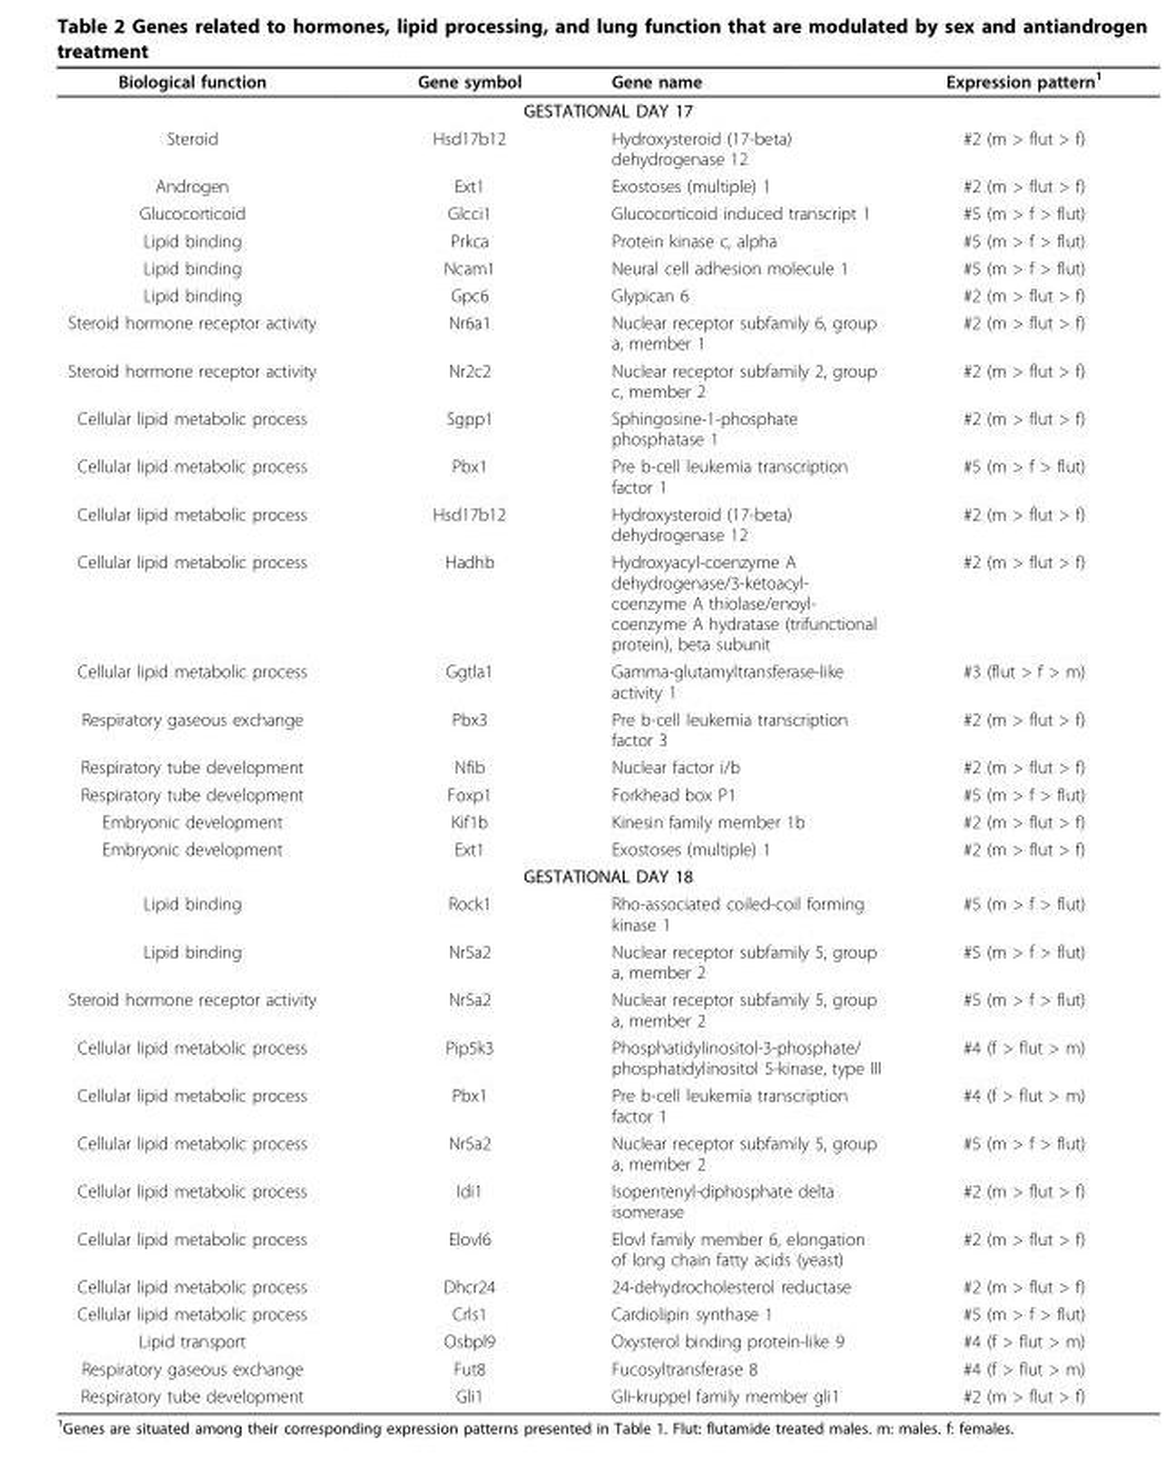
<table><tbody><tr><td>Biological function</td><td>Gene symbol</td><td>Gene name</td><td>Expression pattern<sup>1</sup></td></tr><tr><td colspan="4">GESTATIONAL DAY 17</td></tr><tr><td>Steroid</td><td>Hsd17b12</td><td>Hydroxysteroid (17-beta) dehydrogenase 12</td><td>#2 (m &gt; flut &gt; f)</td></tr><tr><td>Androgen</td><td>Ext1</td><td>Exostoses (multiple) 1</td><td>#2 (m &gt; flut &gt; f)</td></tr><tr><td>Glucocorticoid</td><td>Glcci1</td><td>Glucocorticoid induced transcript 1</td><td>#5 (m &gt; f &gt; flut)</td></tr><tr><td>Lipid binding</td><td>Prkca</td><td>Protein kinase c, alpha</td><td>#5 (m &gt; f &gt; flut)</td></tr><tr><td>Lipid binding</td><td>Ncam1</td><td>Neural cell adhesion molecule 1</td><td>#5 (m &gt; f &gt; flut)</td></tr><tr><td>Lipid binding</td><td>Gpc6</td><td>Glypican 6</td><td>#2 (m &gt; flut &gt; f)</td></tr><tr><td>Steroid hormone receptor activity</td><td>Nr6a1</td><td>Nuclear receptor subfamily 6, group a, member 1</td><td>#2 (m &gt; flut &gt; f)</td></tr><tr><td>Steroid hormone receptor activity</td><td>Nr2c2</td><td>Nuclear receptor subfamily 2, group c, member 2</td><td>#2 (m &gt; flut &gt; f)</td></tr><tr><td>Cellular lipid metabolic process</td><td>Sgpp1</td><td>Sphingosine-1-phosphate phosphatase 1</td><td>#2 (m &gt; flut &gt; f)</td></tr><tr><td>Cellular lipid metabolic process</td><td>Pbx1</td><td>Pre b-cell leukemia transcription factor 1</td><td>#5 (m &gt; f &gt; flut)</td></tr><tr><td>Cellular lipid metabolic process</td><td>Hsd17b12</td><td>Hydroxysteroid (17-beta) dehydrogenase 12</td><td>#2 (m &gt; flut &gt; f)</td></tr><tr><td>Cellular lipid metabolic process</td><td>Hadhb</td><td>Hydroxyacyl-coenzyme A dehydrogenase/3-ketoacyl- coenzyme A thiolase/enoyl- coenzyme A hydratase (trifunctional protein), beta subunit</td><td>#2 (m &gt; flut &gt; f)</td></tr><tr><td>Cellular lipid metabolic process</td><td>Ggtla1</td><td>Gamma-glutamyltransferase-like activity 1</td><td>#3 (flut &gt; f &gt; m)</td></tr><tr><td>Respiratory gaseous exchange</td><td>Pbx3</td><td>Pre b-cell leukemia transcription factor 3</td><td>#2 (m &gt; flut &gt; f)</td></tr><tr><td>Respiratory tube development</td><td>Nfib</td><td>Nuclear factor i/b</td><td>#2 (m &gt; flut &gt; f)</td></tr><tr><td>Respiratory tube development</td><td>Foxp1</td><td>Forkhead box P1</td><td>#5 (m &gt; f &gt; flut)</td></tr><tr><td>Embryonic development</td><td>Kif1b</td><td>Kinesin family member 1b</td><td>#2 (m &gt; flut &gt; f)</td></tr><tr><td>Embryonic development</td><td>Ext1</td><td>Exostoses (multiple) 1</td><td>#2 (m &gt; flut &gt; f)</td></tr><tr><td colspan="4">GESTATIONAL DAY 18</td></tr><tr><td>Lipid binding</td><td>Rock1</td><td>Rho-associated coiled-coil forming kinase 1</td><td>#5 (m &gt; f &gt; flut)</td></tr><tr><td>Lipid binding</td><td>Nr5a2</td><td>Nuclear receptor subfamily 5, group a, member 2</td><td>#5 (m &gt; f &gt; flut)</td></tr><tr><td>Steroid hormone receptor activity</td><td>Nr5a2</td><td>Nuclear receptor subfamily 5, group a, member 2</td><td>#5 (m &gt; f &gt; flut)</td></tr><tr><td>Cellular lipid metabolic process</td><td>Pip5k3</td><td>Phosphatidylinositol-3-phosphate/ phosphatidylinositol 5-kinase, type III</td><td>#4 (f &gt; flut &gt; m)</td></tr><tr><td>Cellular lipid metabolic process</td><td>Pbx1</td><td>Pre b-cell leukemia transcription factor 1</td><td>#4 (f &gt; flut &gt; m)</td></tr><tr><td>Cellular lipid metabolic process</td><td>Nr5a2</td><td>Nuclear receptor subfamily 5, group a, member 2</td><td>#5 (m &gt; f &gt; flut)</td></tr><tr><td>Cellular lipid metabolic process</td><td>Idi1</td><td>Isopentenyl-diphosphate delta isomerase</td><td>#2 (m &gt; flut &gt; f)</td></tr><tr><td>Cellular lipid metabolic process</td><td>Elovl6</td><td>Elovl family member 6, elongation of long chain fatty acids (yeast)</td><td>#2 (m &gt; flut &gt; f)</td></tr><tr><td>Cellular lipid metabolic process</td><td>Dhcr24</td><td>24-dehydrocholesterol reductase</td><td>#2 (m &gt; flut &gt; f)</td></tr><tr><td>Cellular lipid metabolic process</td><td>Crls1</td><td>Cardiolipin synthase 1</td><td>#5 (m &gt; f &gt; flut)</td></tr><tr><td>Lipid transport</td><td>Osbpl9</td><td>Oxysterol binding protein-like 9</td><td>#4 (f &gt; flut &gt; m)</td></tr><tr><td>Respiratory gaseous exchange</td><td>Fut8</td><td>Fucosyltransferase 8</td><td>#4 (f &gt; flut &gt; m)</td></tr><tr><td>Respiratory tube development</td><td>Gli1</td><td>Gli-kruppel family member gli1</td><td>#2 (m &gt; flut &gt; f)</td></tr></tbody></table>